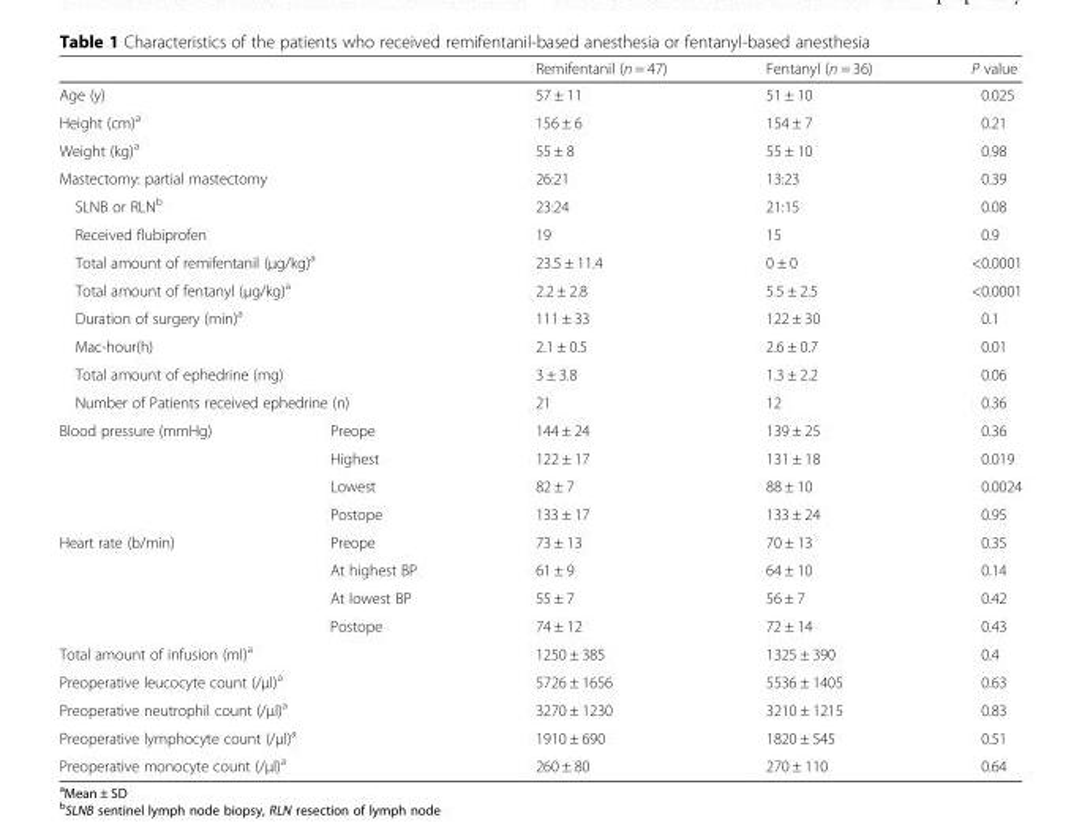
<table><thead><tr><td></td><td></td><td>Remifentanil (n = 47)</td><td>Fentanyl (n = 36)</td><td>P value</td></tr></thead><tbody><tr><td colspan="2">Age (y)</td><td>57 ± 11</td><td>51 ± 10</td><td>0.025</td></tr><tr><td colspan="2">Height (cm)<sup>a</sup></td><td>156 ± 6</td><td>154 ± 7</td><td>0.21</td></tr><tr><td colspan="2">Weight (kg)<sup>a</sup></td><td>55 ± 8</td><td>55 ± 10</td><td>0.98</td></tr><tr><td colspan="2">Mastectomy: partial mastectomy</td><td>26:21</td><td>13:23</td><td>0.39</td></tr><tr><td colspan="2">SLNB or RLN<sup>b</sup></td><td>23:24</td><td>21:15</td><td>0.08</td></tr><tr><td colspan="2">Received flubiprofen</td><td>19</td><td>15</td><td>0.9</td></tr><tr><td colspan="2">Total amount of remifentanil (μg/kg)<sup>a</sup></td><td>23.5 ± 11.4</td><td>0 ± 0</td><td>&lt;0.0001</td></tr><tr><td colspan="2">Total amount of fentanyl (μg/kg)<sup>a</sup></td><td>2.2 ± 2.8</td><td>5.5 ± 2.5</td><td>&lt;0.0001</td></tr><tr><td colspan="2">Duration of surgery (min)<sup>a</sup></td><td>111 ± 33</td><td>122 ± 30</td><td>0.1</td></tr><tr><td colspan="2">Mac-hour(h)</td><td>2.1 ± 0.5</td><td>2.6 ± 0.7</td><td>0.01</td></tr><tr><td colspan="2">Total amount of ephedrine (mg)</td><td>3 ± 3.8</td><td>1.3 ± 2.2</td><td>0.06</td></tr><tr><td colspan="2">Number of Patients received ephedrine (n)</td><td>21</td><td>12</td><td>0.36</td></tr><tr><td rowspan="4">Blood pressure (mmHg)</td><td>Preope</td><td>144 ± 24</td><td>139 ± 25</td><td>0.36</td></tr><tr><td>Highest</td><td>122 ± 17</td><td>131 ± 18</td><td>0.019</td></tr><tr><td>Lowest</td><td>82 ± 7</td><td>88 ± 10</td><td>0.0024</td></tr><tr><td>Postope</td><td>133 ± 17</td><td>133 ± 24</td><td>0.95</td></tr><tr><td rowspan="4">Heart rate (b/min)</td><td>Preope</td><td>73 ± 13</td><td>70 ± 13</td><td>0.35</td></tr><tr><td>At highest BP</td><td>61 ± 9</td><td>64 ± 10</td><td>0.14</td></tr><tr><td>At lowest BP</td><td>55 ± 7</td><td>56 ± 7</td><td>0.42</td></tr><tr><td>Postope</td><td>74 ± 12</td><td>72 ± 14</td><td>0.43</td></tr><tr><td colspan="2">Total amount of infusion (ml)<sup>a</sup></td><td>1250 ± 385</td><td>1325 ± 390</td><td>0.4</td></tr><tr><td colspan="2">Preoperative leucocyte count (/μl)<sup>a</sup></td><td>5726 ± 1656</td><td>5536 ± 1405</td><td>0.63</td></tr><tr><td colspan="2">Preoperative neutrophil count (/μl)<sup>a</sup></td><td>3270 ± 1230</td><td>3210 ± 1215</td><td>0.83</td></tr><tr><td colspan="2">Preoperative lymphocyte count (/μl)<sup>a</sup></td><td>1910 ± 690</td><td>1820 ± 545</td><td>0.51</td></tr><tr><td colspan="2">Preoperative monocyte count (/μl)<sup>a</sup></td><td>260 ± 80</td><td>270 ± 110</td><td>0.64</td></tr></tbody></table>